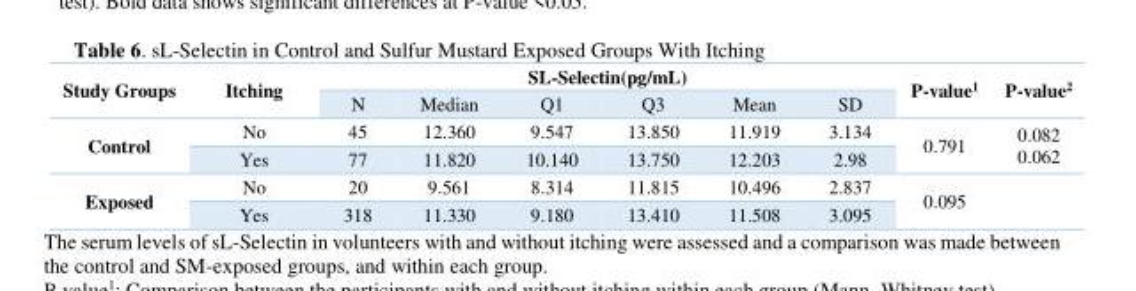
<table><thead><tr><td rowspan="2">Study Groups</td><td rowspan="2">Itching</td><td colspan="6">SL-Selectin(pg/mL)</td><td rowspan="2">P-value<sup>1</sup></td><td rowspan="2">P-value<sup>2</sup></td></tr><tr><td>N</td><td>Median</td><td>Q1</td><td>Q3</td><td>Mean</td><td>SD</td></tr></thead><tbody><tr><td rowspan="2">Control</td><td>No</td><td>45</td><td>12.360</td><td>9.547</td><td>13.850</td><td>11.919</td><td>3.134</td><td rowspan="2">0.791</td><td rowspan="2">0.082 0.062</td></tr><tr><td>Yes</td><td>77</td><td>11.820</td><td>10.140</td><td>13.750</td><td>12.203</td><td>2.98</td></tr><tr><td rowspan="2">Exposed</td><td>No</td><td>20</td><td>9.561</td><td>8.314</td><td>11.815</td><td>10.496</td><td>2.837</td><td rowspan="2">0.095</td><td rowspan="2"></td></tr><tr><td>Yes</td><td>318</td><td>11.330</td><td>9.180</td><td>13.410</td><td>11.508</td><td>3.095</td></tr></tbody></table>